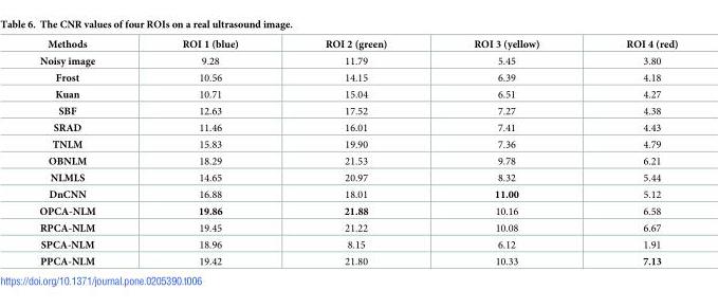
<table><thead><tr><td>Methods</td><td>ROI 1 (blue)</td><td>ROI 2 (green)</td><td>ROI 3 (yellow)</td><td>ROI 4 (red)</td></tr></thead><tbody><tr><td>Noisy image</td><td>9.28</td><td>11.79</td><td>5.45</td><td>3.80</td></tr><tr><td>Frost</td><td>10.56</td><td>14.15</td><td>6.39</td><td>4.18</td></tr><tr><td>Kuan</td><td>10.71</td><td>15.04</td><td>6.51</td><td>4.27</td></tr><tr><td>SBF</td><td>12.63</td><td>17.52</td><td>7.27</td><td>4.38</td></tr><tr><td>SRAD</td><td>11.46</td><td>16.01</td><td>7.41</td><td>4.43</td></tr><tr><td>TNLM</td><td>15.83</td><td>19.90</td><td>7.36</td><td>4.79</td></tr><tr><td>OBNLM</td><td>18.29</td><td>21.53</td><td>9.78</td><td>6.21</td></tr><tr><td>NLMLS</td><td>14.65</td><td>20.97</td><td>8.32</td><td>5.44</td></tr><tr><td>DnCNN</td><td>16.88</td><td>18.01</td><td>11.00</td><td>5.12</td></tr><tr><td>OPCA-NLM</td><td>19.86</td><td>21.88</td><td>10.16</td><td>6.58</td></tr><tr><td>RPCA-NLM</td><td>19.45</td><td>21.22</td><td>10.08</td><td>6.67</td></tr><tr><td>SPCA-NLM</td><td>18.96</td><td>8.15</td><td>6.12</td><td>1.91</td></tr><tr><td>PPCA-NLM</td><td>19.42</td><td>21.80</td><td>10.33</td><td>7.13</td></tr></tbody></table>